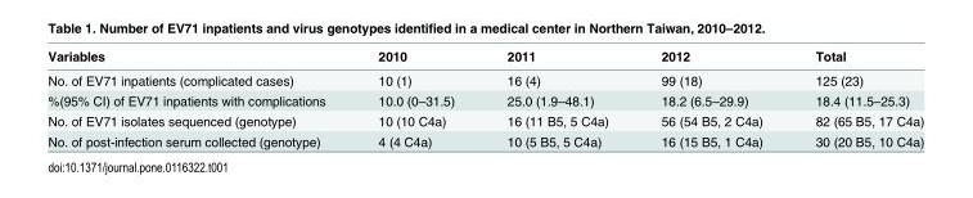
<table><thead><tr><td>Variables</td><td>2010</td><td>2011</td><td>2012</td><td>Total</td></tr></thead><tbody><tr><td>No. of EV71 inpatients (complicated cases)</td><td>10 (1)</td><td>16 (4)</td><td>99 (18)</td><td>125 (23)</td></tr><tr><td>%(95% CI) of EV71 inpatients with complications</td><td>10.0 (0–31.5)</td><td>25.0 (1.9–48.1)</td><td>18.2 (6.5–29.9)</td><td>18.4 (11.5–25.3)</td></tr><tr><td>No. of EV71 isolates sequenced (genotype)</td><td>10 (10 C4a)</td><td>16 (11 B5, 5 C4a)</td><td>56 (54 B5, 2 C4a)</td><td>82 (65 B5, 17 C4a)</td></tr><tr><td>No. of post-infection serum collected (genotype)</td><td>4 (4 C4a)</td><td>10 (5 B5, 5 C4a)</td><td>16 (15 B5, 1 C4a)</td><td>30 (20 B5, 10 C4a)</td></tr></tbody></table>